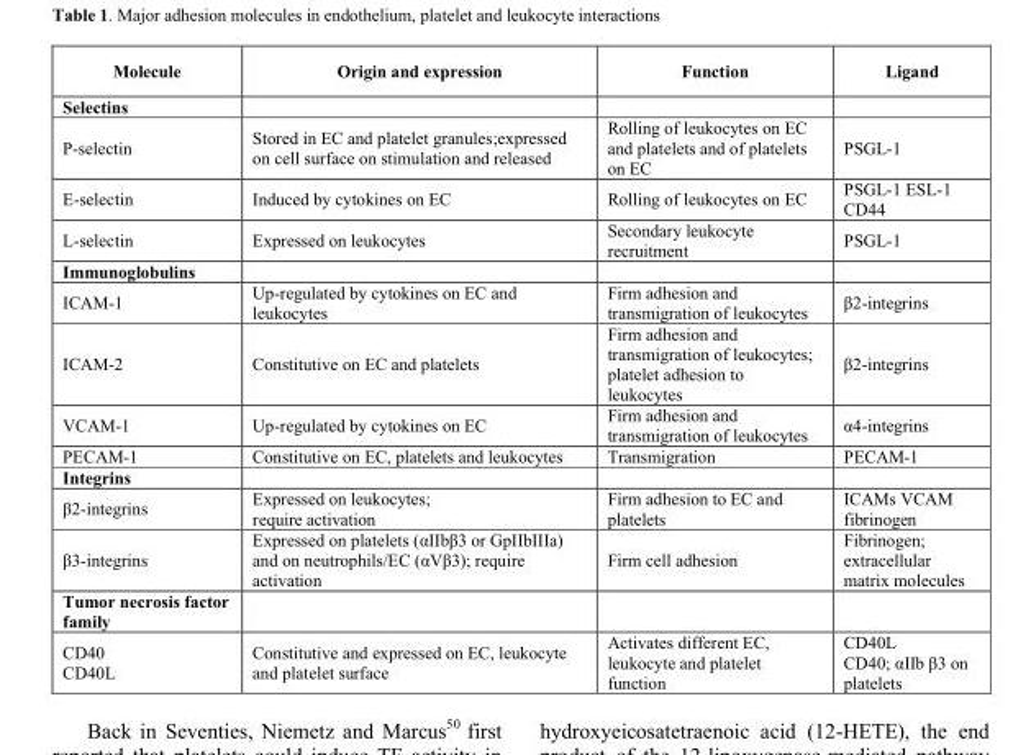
<table><thead><tr><td>Molecule</td><td>Origin and expression</td><td>Function</td><td>Ligand</td></tr></thead><tbody><tr><td colspan="4">Selectins</td></tr><tr><td>P-selectin</td><td>Stored in EC and platelet granules;expressed on cell surface on stimulation and released</td><td>Rolling of leukocytes on EC and platelets and of platelets on EC</td><td>PSGL-1</td></tr><tr><td>E-selectin</td><td>Induced by cytokines on EC</td><td>Rolling of leukocytes on EC</td><td>PSGL-1 ESL-1 CD44</td></tr><tr><td>L-selectin</td><td>Expressed on leukocytes</td><td>Secondary leukocyte recruitment</td><td>PSGL-1</td></tr><tr><td colspan="4">Immunoglobulins</td></tr><tr><td>ICAM-1</td><td>Up-regulated by cytokines on EC and leukocytes</td><td>Firm adhesion and transmigration of leukocytes</td><td>β2-integrins</td></tr><tr><td>ICAM-2</td><td>Constitutive on EC and platelets</td><td>Firm adhesion and transmigration of leukocytes; platelet adhesion to leukocytes</td><td>β2-integrins</td></tr><tr><td>VCAM-1</td><td>Up-regulated by cytokines on EC</td><td>Firm adhesion and transmigration of leukocytes</td><td>α4-integrins</td></tr><tr><td>PECAM-1</td><td>Constitutive on EC, platelets and leukocytes</td><td>Transmigration</td><td>PECAM-1</td></tr><tr><td colspan="4">Integrins</td></tr><tr><td>β2-integrins</td><td>Expressed on leukocytes; require activation</td><td>Firm adhesion to EC and platelets</td><td>ICAMs VCAM fibrinogen</td></tr><tr><td>β3-integrins</td><td>Expressed on platelets (αIIbβ3 or GpIIbIIIa) and on neutrophils/EC (αVβ3); require activation</td><td>Firm cell adhesion</td><td>Fibrinogen; extracellular matrix molecules</td></tr><tr><td colspan="4">Tumor necrosis factor family</td></tr><tr><td>CD40 CD40L</td><td>Constitutive and expressed on EC, leukocyte and platelet surface</td><td>Activates different EC, leukocyte and platelet function</td><td>CD40L CD40; αIIb β3 on platelets</td></tr></tbody></table>